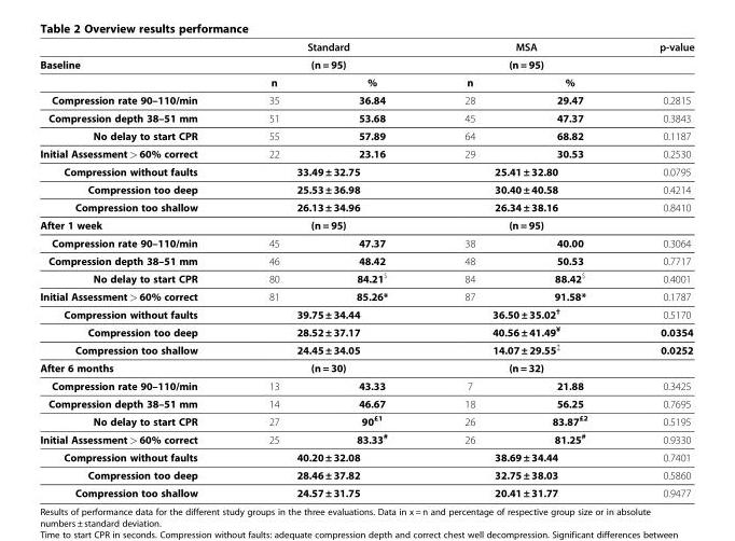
<table><thead><tr><td rowspan="3">Baseline</td><td rowspan="2" colspan="2">Standard (n = 95)</td><td rowspan="2" colspan="2">MSA (n = 95)</td><td rowspan="3">p-value</td></tr><tr></tr><tr><td>n</td><td>%</td><td>n</td><td>%</td></tr></thead><tbody><tr><td>Compression rate 90–110/min</td><td>35</td><td>36.84</td><td>28</td><td>29.47</td><td>0.2815</td></tr><tr><td>Compression depth 38–51 mm</td><td>51</td><td>53.68</td><td>45</td><td>47.37</td><td>0.3843</td></tr><tr><td>No delay to start CPR</td><td>55</td><td>57.89</td><td>64</td><td>68.82</td><td>0.1187</td></tr><tr><td>Initial Assessment &gt; 60% correct</td><td>22</td><td>23.16</td><td>29</td><td>30.53</td><td>0.2530</td></tr><tr><td>Compression without faults</td><td colspan="2">33.49 ± 32.75</td><td colspan="2">25.41 ± 32.80</td><td>0.0795</td></tr><tr><td>Compression too deep</td><td colspan="2">25.53 ± 36.98</td><td colspan="2">30.40 ± 40.58</td><td>0.4214</td></tr><tr><td>Compression too shallow</td><td colspan="2">26.13 ± 34.96</td><td colspan="2">26.34 ± 38.16</td><td>0.8410</td></tr><tr><td>After 1 week</td><td colspan="2">(n = 95)</td><td colspan="2">(n = 95)</td><td></td></tr><tr><td>Compression rate 90–110/min</td><td>45</td><td>47.37</td><td>38</td><td>40.00</td><td>0.3064</td></tr><tr><td>Compression depth 38–51 mm</td><td>46</td><td>48.42</td><td>48</td><td>50.53</td><td>0.7717</td></tr><tr><td>No delay to start CPR</td><td>80</td><td>84.21<sup>$</sup></td><td>84</td><td>88.42<sup>$</sup></td><td>0.4001</td></tr><tr><td>Initial Assessment &gt; 60% correct</td><td>81</td><td>85.26*</td><td>87</td><td>91.58*</td><td>0.1787</td></tr><tr><td>Compression without faults</td><td colspan="2">39.75 ± 34.44</td><td colspan="2">36.50 ± 35.02<sup>†</sup></td><td>0.5170</td></tr><tr><td>Compression too deep</td><td colspan="2">28.52 ± 37.17</td><td colspan="2">40.56 ± 41.49<sup>¥</sup></td><td>0.0354</td></tr><tr><td>Compression too shallow</td><td colspan="2">24.45 ± 34.05</td><td colspan="2">14.07 ± 29.55<sup>‡</sup></td><td>0.0252</td></tr><tr><td>After 6 months</td><td colspan="2">(n = 30)</td><td colspan="2">(n = 32)</td><td></td></tr><tr><td>Compression rate 90–110/min</td><td>13</td><td>43.33</td><td>7</td><td>21.88</td><td>0.3425</td></tr><tr><td>Compression depth 38–51 mm</td><td>14</td><td>46.67</td><td>18</td><td>56.25</td><td>0.7695</td></tr><tr><td>No delay to start CPR</td><td>27</td><td>90<sup>£1</sup></td><td>26</td><td>83.87<sup>£2</sup></td><td>0.5195</td></tr><tr><td>Initial Assessment &gt; 60% correct</td><td>25</td><td>83.33<sup>#</sup></td><td>26</td><td>81.25<sup>#</sup></td><td>0.9330</td></tr><tr><td>Compression without faults</td><td colspan="2">40.20 ± 32.08</td><td colspan="2">38.69 ± 34.44</td><td>0.7401</td></tr><tr><td>Compression too deep</td><td colspan="2">28.46 ± 37.82</td><td colspan="2">32.75 ± 38.03</td><td>0.5860</td></tr><tr><td>Compression too shallow</td><td colspan="2">24.57 ± 31.75</td><td colspan="2">20.41 ± 31.77</td><td>0.9477</td></tr></tbody></table>